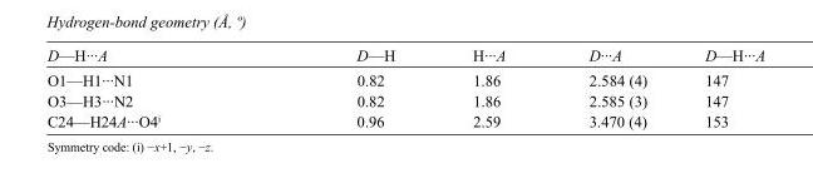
<table><tbody><tr><td>D—H···A</td><td>D—H</td><td>H···A</td><td>D···A</td><td>D—H···A</td></tr><tr><td>O1—H1···N1</td><td>0.82</td><td>1.86</td><td>2.584 (4)</td><td>147</td></tr><tr><td>O3—H3···N2</td><td>0.82</td><td>1.86</td><td>2.585 (3)</td><td>147</td></tr><tr><td>C24—H24A···O4<sup>i</sup></td><td>0.96</td><td>2.59</td><td>3.470 (4)</td><td>153</td></tr></tbody></table>